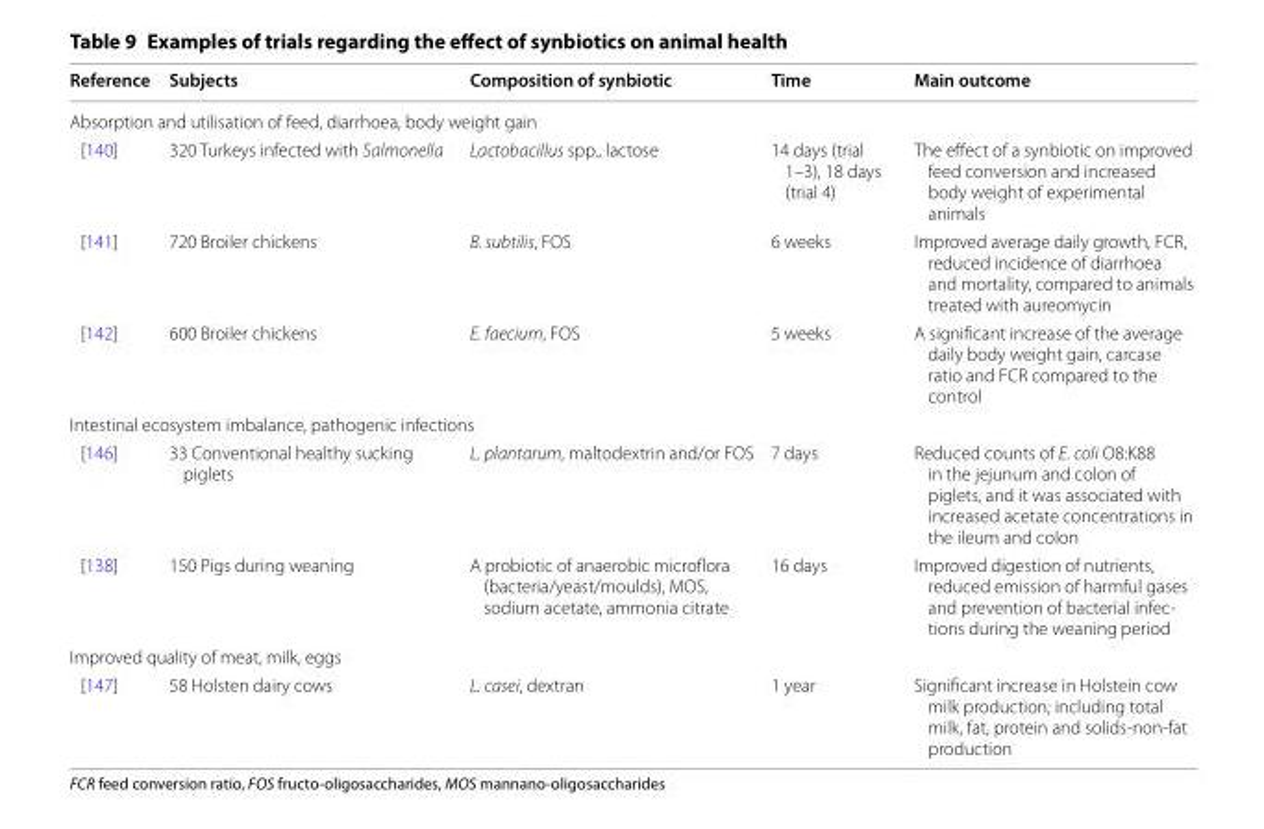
<table><thead><tr><td>Reference</td><td>Subjects</td><td>Composition of synbiotic</td><td>Time</td><td>Main outcome</td></tr></thead><tbody><tr><td colspan="5">Absorption and utilisation of feed, diarrhoea, body weight gain</td></tr><tr><td>[140]</td><td>320 Turkeys infected with Salmonella</td><td>Lactobacillus spp., lactose</td><td>14 days (trial 1–3), 18 days (trial 4)</td><td>The effect of a synbiotic on improved feed conversion and increased body weight of experimental animals</td></tr><tr><td>[141]</td><td>720 Broiler chickens</td><td>B. subtilis, FOS</td><td>6 weeks</td><td>Improved average daily growth, FCR, reduced incidence of diarrhoea and mortality, compared to animals treated with aureomycin</td></tr><tr><td>[142]</td><td>600 Broiler chickens</td><td>E. faecium, FOS</td><td>5 weeks</td><td>A significant increase of the average daily body weight gain, carcase ratio and FCR compared to the control</td></tr><tr><td colspan="5">Intestinal ecosystem imbalance, pathogenic infections</td></tr><tr><td>[146]</td><td>33 Conventional healthy sucking piglets</td><td>L. plantarum, maltodextrin and/or FOS</td><td>7 days</td><td>Reduced counts of E. coli O8:K88 in the jejunum and colon of piglets, and it was associated with increased acetate concentrations in the ileum and colon</td></tr><tr><td>[138]</td><td>150 Pigs during weaning</td><td>A probiotic of anaerobic microflora (bacteria/yeast/moulds), MOS, sodium acetate, ammonia citrate</td><td>16 days</td><td>Improved digestion of nutrients, reduced emission of harmful gases and prevention of bacterial infec- tions during the weaning period</td></tr><tr><td colspan="5">Improved quality of meat, milk, eggs</td></tr><tr><td>[147]</td><td>58 Holsten dairy cows</td><td>L. casei, dextran</td><td>1 year</td><td>Significant increase in Holstein cow milk production; including total milk, fat, protein and solids-non-fat production</td></tr></tbody></table>